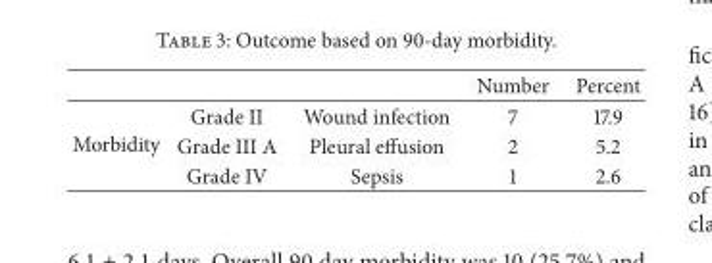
<table><thead><tr><td></td><td></td><td></td><td>Number</td><td>Percent</td></tr></thead><tbody><tr><td rowspan="3">Morbidity</td><td>Grade II</td><td>Wound infection</td><td>7</td><td>17.9</td></tr><tr><td>Grade III A</td><td>Pleural effusion</td><td>2</td><td>5.2</td></tr><tr><td>Grade IV</td><td>Sepsis</td><td>1</td><td>2.6</td></tr></tbody></table>